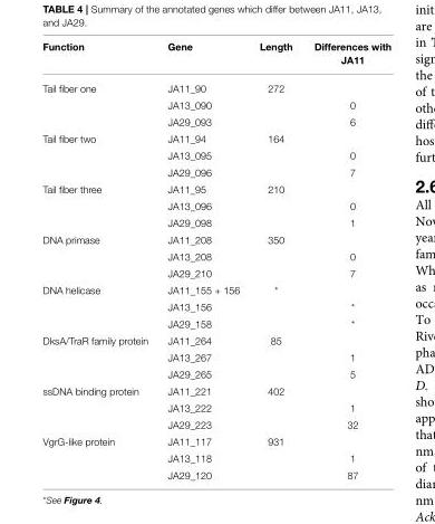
<table><thead><tr><td>Function</td><td>Gene</td><td>Length</td><td>Differences with JA11</td></tr></thead><tbody><tr><td rowspan="3">Tail fiber one</td><td>JA11_90</td><td>272</td><td></td></tr><tr><td>JA13_090</td><td></td><td>0</td></tr><tr><td>JA29_093</td><td></td><td>6</td></tr><tr><td rowspan="3">Tail fiber two</td><td>JA11_94</td><td>164</td><td></td></tr><tr><td>JA13_095</td><td></td><td>0</td></tr><tr><td>JA29_096</td><td></td><td>7</td></tr><tr><td rowspan="3">Tail fiber three</td><td>JA11_95</td><td>210</td><td></td></tr><tr><td>JA13_096</td><td></td><td>0</td></tr><tr><td>JA29_098</td><td></td><td>1</td></tr><tr><td rowspan="3">DNA primase</td><td>JA11_208</td><td>350</td><td></td></tr><tr><td>JA13_208</td><td></td><td>0</td></tr><tr><td>JA29_210</td><td></td><td>7</td></tr><tr><td rowspan="3">DNA helicase</td><td>JA11_155 + 156</td><td>*</td><td></td></tr><tr><td>JA13_156</td><td></td><td>*</td></tr><tr><td>JA29_158</td><td></td><td>*</td></tr><tr><td rowspan="3">DksA/TraR family protein</td><td>JA11_264</td><td>85</td><td></td></tr><tr><td>JA13_267</td><td></td><td>1</td></tr><tr><td>JA29_265</td><td></td><td>5</td></tr><tr><td rowspan="3">ssDNA binding protein</td><td>JA11_221</td><td>402</td><td></td></tr><tr><td>JA13_222</td><td></td><td>1</td></tr><tr><td>JA29_223</td><td></td><td>32</td></tr><tr><td rowspan="3">VgrG-like protein</td><td>JA11_117</td><td>931</td><td></td></tr><tr><td>JA13_118</td><td></td><td>1</td></tr><tr><td>JA29_120</td><td></td><td>87</td></tr></tbody></table>